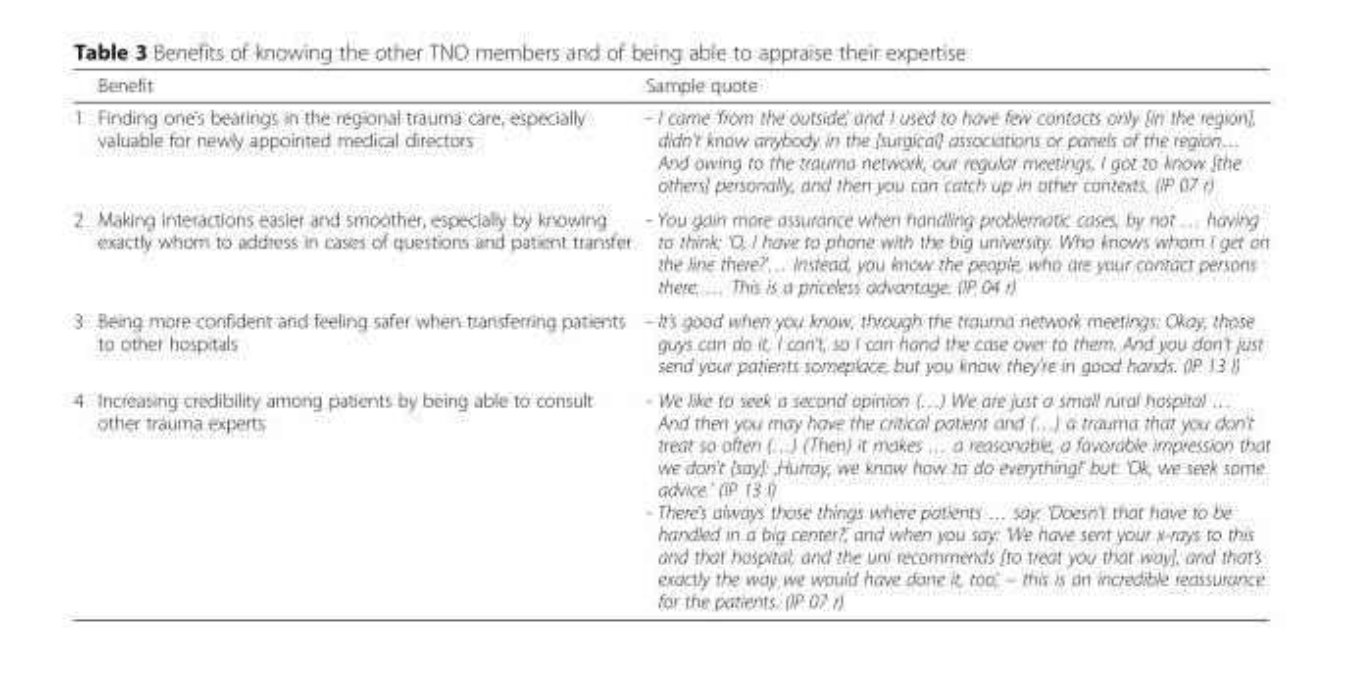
<table><thead><tr><td></td><td>Benefit</td><td>Sample quote</td></tr></thead><tbody><tr><td>1</td><td>Finding one’s bearings in the regional trauma care, especially valuable for newly appointed medical directors</td><td>- I came ‘from the outside’, and I used to have few contacts only [in the region], didn’t know anybody in the [surgical] associations or panels of the region… And owing to the trauma network, our regular meetings, I got to know [the others] personally, and then you can catch up in other contexts. (IP 07 r)</td></tr><tr><td>2</td><td>Making interactions easier and smoother, especially by knowing exactly whom to address in cases of questions and patient transfer</td><td>- You gain more assurance when handling problematic cases, by not … having to think: ‘O, I have to phone with the big university. Who knows whom I get on the line there?’… Instead, you know the people, who are your contact persons there. … This is a priceless advantage. (IP 04 r)</td></tr><tr><td>3</td><td>Being more confident and feeling safer when transferring patients to other hospitals</td><td>- It’s good when you know, through the trauma network meetings: Okay, those guys can do it, I can’t, so I can hand the case over to them. And you don’t just send your patients someplace, but you know they’re in good hands. (IP 13 l)</td></tr><tr><td>4</td><td>Increasing credibility among patients by being able to consult other trauma experts</td><td>- We like to seek a second opinion (…) We are just a small rural hospital … And then you may have the critical patient and (…) a trauma that you don’t treat so often (…) (Then) it makes … a reasonable, a favorable impression that we don’t [say]: ‚Hurray, we know how to do everything!’ but: ‘Ok, we seek some advice.’ (IP 13 l) - There’s always those things where patients … say: ‘Doesn’t that have to be handled in a big center?’, and when you say: ‘We have sent your x-rays to this and that hospital, and the uni recommends [to treat you that way], and that’s exactly the way we would have done it, too’, − this is an incredible reassurance for the patients. (IP 07 r)</td></tr></tbody></table>